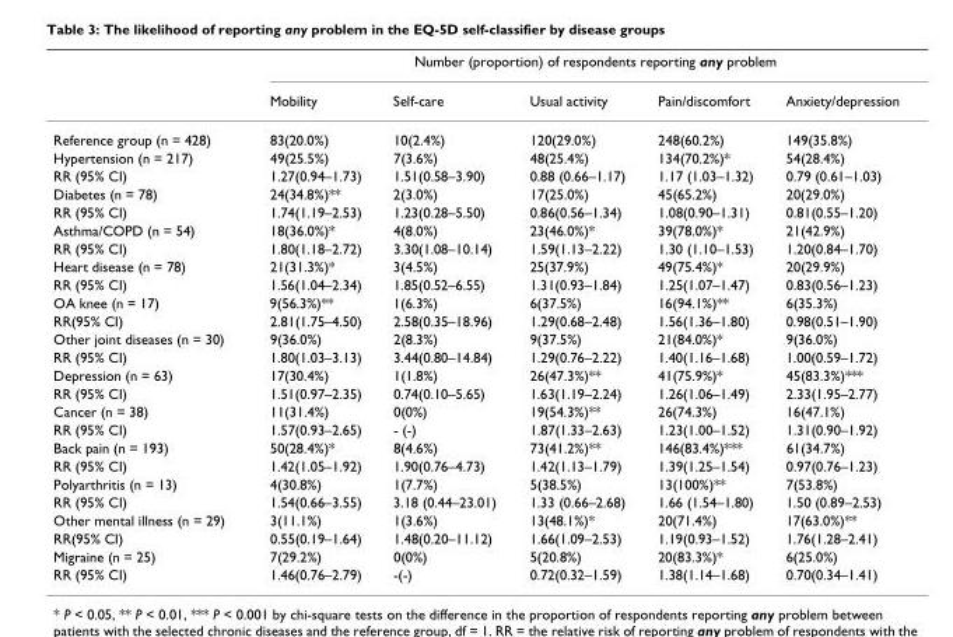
<table><thead><tr><td rowspan="2"></td><td colspan="5">Number (proportion) of respondents reporting any problem</td></tr><tr><td>Mobility</td><td>Self-care</td><td>Usual activity</td><td>Pain/discomfort</td><td>Anxiety/depression</td></tr></thead><tbody><tr><td>Reference group (n = 428)</td><td>83(20.0%)</td><td>10(2.4%)</td><td>120(29.0%)</td><td>248(60.2%)</td><td>149(35.8%)</td></tr><tr><td>Hypertension (n = 217)</td><td>49(25.5%)</td><td>7(3.6%)</td><td>48(25.4%)</td><td>134(70.2%)*</td><td>54(28.4%)</td></tr><tr><td>RR (95% CI)</td><td>1.27(0.94–1.73)</td><td>1.51(0.58–3.90)</td><td>0.88 (0.66–1.17)</td><td>1.17 (1.03–1.32)</td><td>0.79 (0.61–1.03)</td></tr><tr><td>Diabetes (n = 78)</td><td>24(34.8%)**</td><td>2(3.0%)</td><td>17(25.0%)</td><td>45(65.2%)</td><td>20(29.0%)</td></tr><tr><td>RR (95% CI)</td><td>1.74(1.19–2.53)</td><td>1.23(0.28–5.50)</td><td>0.86(0.56–1.34)</td><td>1.08(0.90–1.31)</td><td>0.81(0.55–1.20)</td></tr><tr><td>Asthma/COPD (n = 54)</td><td>18(36.0%)*</td><td>4(8.0%)</td><td>23(46.0%)*</td><td>39(78.0%)*</td><td>21(42.9%)</td></tr><tr><td>RR (95% CI)</td><td>1.80(1.18–2.72)</td><td>3.30(1.08–10.14)</td><td>1.59(1.13–2.22)</td><td>1.30 (1.10–1.53)</td><td>1.20(0.84–1.70)</td></tr><tr><td>Heart disease (n = 78)</td><td>21(31.3%)*</td><td>3(4.5%)</td><td>25(37.9%)</td><td>49(75.4%)*</td><td>20(29.9%)</td></tr><tr><td>RR (95% CI)</td><td>1.56(1.04–2.34)</td><td>1.85(0.52–6.55)</td><td>1.31(0.93–1.84)</td><td>1.25(1.07–1.47)</td><td>0.83(0.56–1.23)</td></tr><tr><td>OA knee (n = 17)</td><td>9(56.3%)**</td><td>1(6.3%)</td><td>6(37.5%)</td><td>16(94.1%)**</td><td>6(35.3%)</td></tr><tr><td>RR(95% CI)</td><td>2.81(1.75–4.50)</td><td>2.58(0.35–18.96)</td><td>1.29(0.68–2.48)</td><td>1.56(1.36–1.80)</td><td>0.98(0.51–1.90)</td></tr><tr><td>Other joint diseases (n = 30)</td><td>9(36.0%)</td><td>2(8.3%)</td><td>9(37.5%)</td><td>21(84.0%)*</td><td>9(36.0%)</td></tr><tr><td>RR (95% CI)</td><td>1.80(1.03–3.13)</td><td>3.44(0.80–14.84)</td><td>1.29(0.76–2.22)</td><td>1.40(1.16–1.68)</td><td>1.00(0.59–1.72)</td></tr><tr><td>Depression (n = 63)</td><td>17(30.4%)</td><td>1(1.8%)</td><td>26(47.3%)**</td><td>41(75.9%)*</td><td>45(83.3%)***</td></tr><tr><td>RR (95% CI)</td><td>1.51(0.97–2.35)</td><td>0.74(0.10–5.65)</td><td>1.63(1.19–2.24)</td><td>1.26(1.06–1.49)</td><td>2.33(1.95–2.77)</td></tr><tr><td>Cancer (n = 38)</td><td>11(31.4%)</td><td>0(0%)</td><td>19(54.3%)**</td><td>26(74.3%)</td><td>16(47.1%)</td></tr><tr><td>RR (95% CI)</td><td>1.57(0.93–2.65)</td><td>- (-)</td><td>1.87(1.33–2.63)</td><td>1.23(1.00–1.52)</td><td>1.31(0.90–1.92)</td></tr><tr><td>Back pain (n = 193)</td><td>50(28.4%)*</td><td>8(4.6%)</td><td>73(41.2%)**</td><td>146(83.4%)***</td><td>61(34.7%)</td></tr><tr><td>RR (95% CI)</td><td>1.42(1.05–1.92)</td><td>1.90(0.76–4.73)</td><td>1.42(1.13–1.79)</td><td>1.39(1.25–1.54)</td><td>0.97(0.76–1.23)</td></tr><tr><td>Polyarthritis (n = 13)</td><td>4(30.8%)</td><td>1(7.7%)</td><td>5(38.5%)</td><td>13(100%)**</td><td>7(53.8%)</td></tr><tr><td>RR (95% CI)</td><td>1.54(0.66–3.55)</td><td>3.18 (0.44–23.01)</td><td>1.33 (0.66–2.68)</td><td>1.66 (1.54–1.80)</td><td>1.50 (0.89–2.53)</td></tr><tr><td>Other mental illness (n = 29)</td><td>3(11.1%)</td><td>1(3.6%)</td><td>13(48.1%)*</td><td>20(71.4%)</td><td>17(63.0%)**</td></tr><tr><td>RR(95% CI)</td><td>0.55(0.19–1.64)</td><td>1.48(0.20–11.12)</td><td>1.66(1.09–2.53)</td><td>1.19(0.93–1.52)</td><td>1.76(1.28–2.41)</td></tr><tr><td>Migraine (n = 25)</td><td>7(29.2%)</td><td>0(0%)</td><td>5(20.8%)</td><td>20(83.3%)*</td><td>6(25.0%)</td></tr><tr><td>RR (95% CI)</td><td>1.46(0.76–2.79)</td><td>-(-)</td><td>0.72(0.32–1.59)</td><td>1.38(1.14–1.68)</td><td>0.70(0.34–1.41)</td></tr></tbody></table>